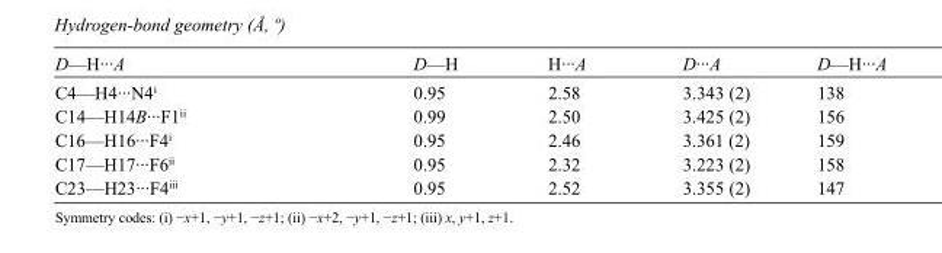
<table><tbody><tr><td>D—H···A</td><td>D—H</td><td>H···A</td><td>D···A</td><td>D—H···A</td></tr><tr><td>C4—H4···N4<sup>i</sup></td><td>0.95</td><td>2.58</td><td>3.343 (2)</td><td>138</td></tr><tr><td>C14—H14B···F1<sup>ii</sup></td><td>0.99</td><td>2.50</td><td>3.425 (2)</td><td>156</td></tr><tr><td>C16—H16···F4<sup>i</sup></td><td>0.95</td><td>2.46</td><td>3.361 (2)</td><td>159</td></tr><tr><td>C17—H17···F6<sup>ii</sup></td><td>0.95</td><td>2.32</td><td>3.223 (2)</td><td>158</td></tr><tr><td>C23—H23···F4<sup>iii</sup></td><td>0.95</td><td>2.52</td><td>3.355 (2)</td><td>147</td></tr></tbody></table>